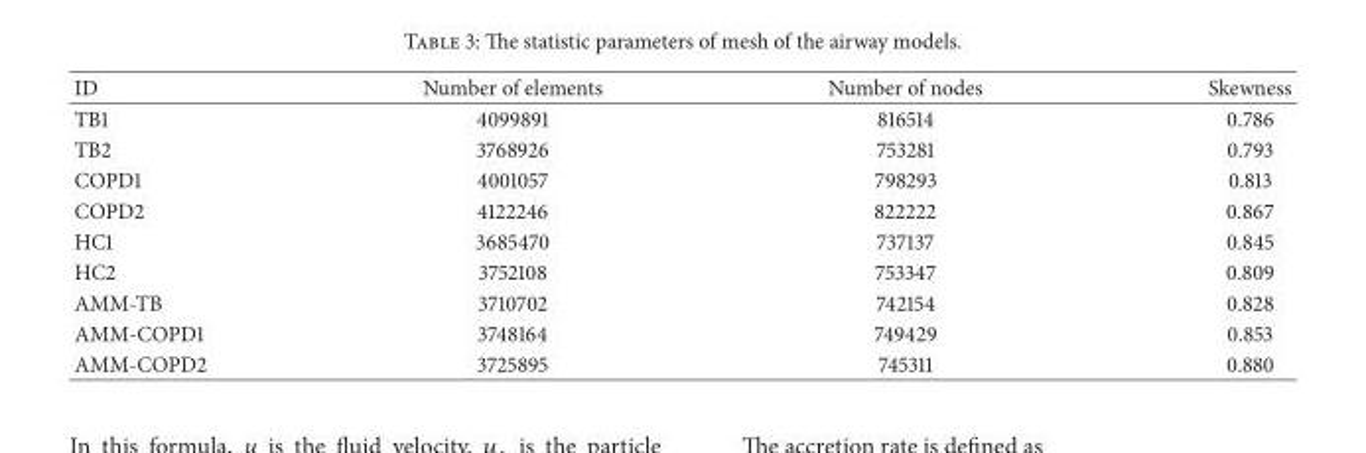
<table><thead><tr><td>ID</td><td>Number of elements</td><td>Number of nodes</td><td>Skewness</td></tr></thead><tbody><tr><td>TB1</td><td>4099891</td><td>816514</td><td>0.786</td></tr><tr><td>TB2</td><td>3768926</td><td>753281</td><td>0.793</td></tr><tr><td>COPD1</td><td>4001057</td><td>798293</td><td>0.813</td></tr><tr><td>COPD2</td><td>4122246</td><td>822222</td><td>0.867</td></tr><tr><td>HC1</td><td>3685470</td><td>737137</td><td>0.845</td></tr><tr><td>HC2</td><td>3752108</td><td>753347</td><td>0.809</td></tr><tr><td>AMM-TB</td><td>3710702</td><td>742154</td><td>0.828</td></tr><tr><td>AMM-COPD1</td><td>3748164</td><td>749429</td><td>0.853</td></tr><tr><td>AMM-COPD2</td><td>3725895</td><td>745311</td><td>0.880</td></tr></tbody></table>